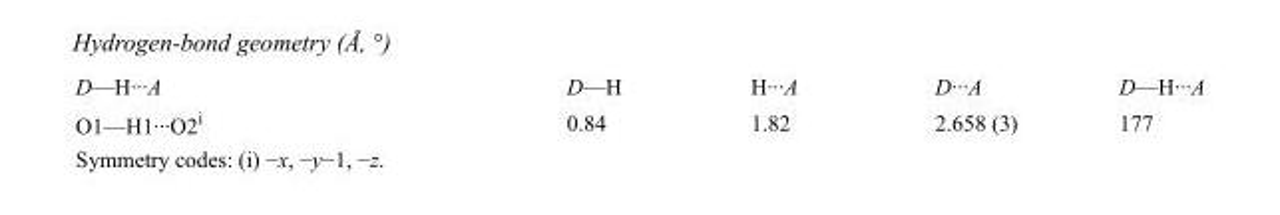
<table><tbody><tr><td>D—H···A</td><td>D—H</td><td>H···A</td><td>D···A</td><td>D—H···A</td></tr><tr><td>O1—H1···O2<sup>i</sup></td><td>0.84</td><td>1.82</td><td>2.658 (3)</td><td>177</td></tr></tbody></table>